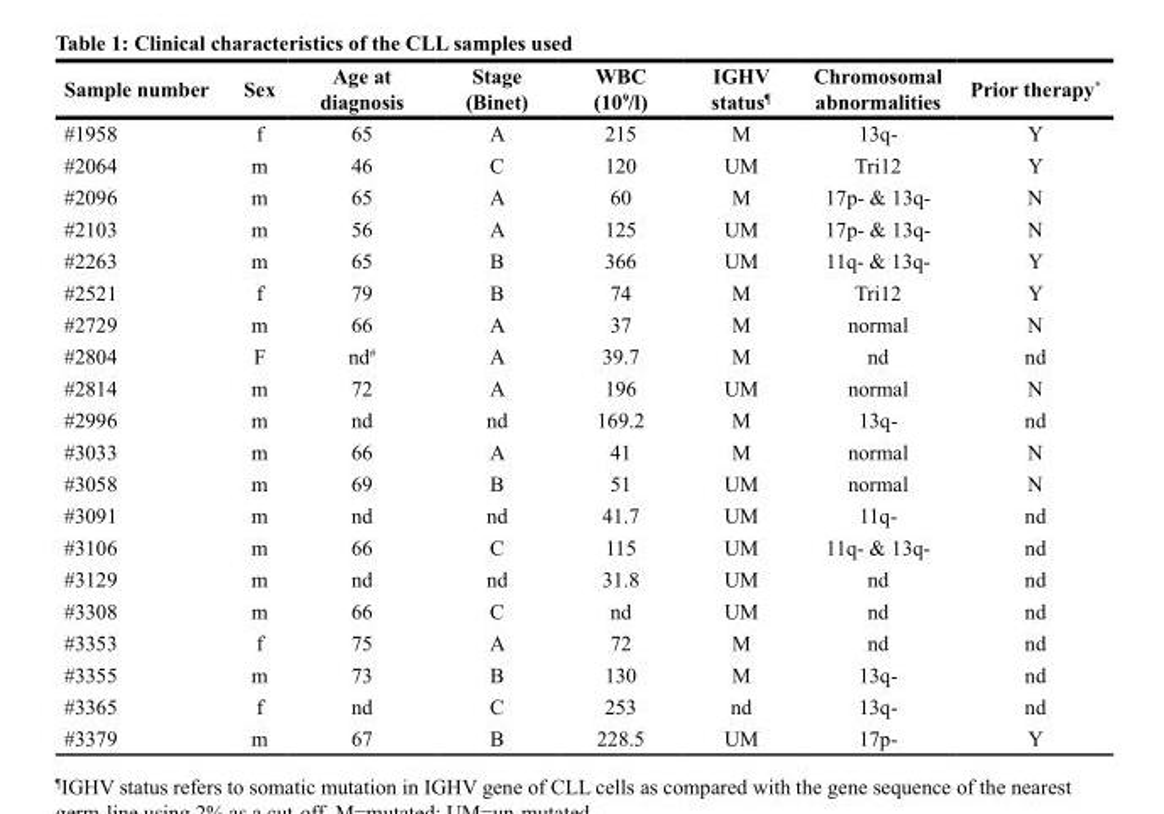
<table><thead><tr><td>Sample number</td><td>Sex</td><td>Age at diagnosis</td><td>Stage (Binet)</td><td>WBC (10<sup>9</sup>/l)</td><td>IGHV status<sup>¶</sup></td><td>Chromosomal abnormalities</td><td>Prior therapy*</td></tr></thead><tbody><tr><td>#1958</td><td>f</td><td>65</td><td>A</td><td>215</td><td>M</td><td>13q-</td><td>Y</td></tr><tr><td>#2064</td><td>m</td><td>46</td><td>C</td><td>120</td><td>UM</td><td>Tri12</td><td>Y</td></tr><tr><td>#2096</td><td>m</td><td>65</td><td>A</td><td>60</td><td>M</td><td>17p- &amp; 13q-</td><td>N</td></tr><tr><td>#2103</td><td>m</td><td>56</td><td>A</td><td>125</td><td>UM</td><td>17p- &amp; 13q-</td><td>N</td></tr><tr><td>#2263</td><td>m</td><td>65</td><td>B</td><td>366</td><td>UM</td><td>11q- &amp; 13q-</td><td>Y</td></tr><tr><td>#2521</td><td>f</td><td>79</td><td>B</td><td>74</td><td>M</td><td>Tri12</td><td>Y</td></tr><tr><td>#2729</td><td>m</td><td>66</td><td>A</td><td>37</td><td>M</td><td>normal</td><td>N</td></tr><tr><td>#2804</td><td>F</td><td>nd<sup>#</sup></td><td>A</td><td>39.7</td><td>M</td><td>nd</td><td>nd</td></tr><tr><td>#2814</td><td>m</td><td>72</td><td>A</td><td>196</td><td>UM</td><td>normal</td><td>N</td></tr><tr><td>#2996</td><td>m</td><td>nd</td><td>nd</td><td>169.2</td><td>M</td><td>13q-</td><td>nd</td></tr><tr><td>#3033</td><td>m</td><td>66</td><td>A</td><td>41</td><td>M</td><td>normal</td><td>N</td></tr><tr><td>#3058</td><td>m</td><td>69</td><td>B</td><td>51</td><td>UM</td><td>normal</td><td>N</td></tr><tr><td>#3091</td><td>m</td><td>nd</td><td>nd</td><td>41.7</td><td>UM</td><td>11q-</td><td>nd</td></tr><tr><td>#3106</td><td>m</td><td>66</td><td>C</td><td>115</td><td>UM</td><td>11q- &amp; 13q-</td><td>nd</td></tr><tr><td>#3129</td><td>m</td><td>nd</td><td>nd</td><td>31.8</td><td>UM</td><td>nd</td><td>nd</td></tr><tr><td>#3308</td><td>m</td><td>66</td><td>C</td><td>nd</td><td>UM</td><td>nd</td><td>nd</td></tr><tr><td>#3353</td><td>f</td><td>75</td><td>A</td><td>72</td><td>M</td><td>nd</td><td>nd</td></tr><tr><td>#3355</td><td>m</td><td>73</td><td>B</td><td>130</td><td>M</td><td>13q-</td><td>nd</td></tr><tr><td>#3365</td><td>f</td><td>nd</td><td>C</td><td>253</td><td>nd</td><td>13q-</td><td>nd</td></tr><tr><td>#3379</td><td>m</td><td>67</td><td>B</td><td>228.5</td><td>UM</td><td>17p-</td><td>Y</td></tr></tbody></table>